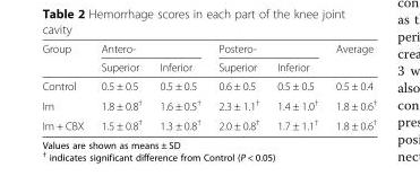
<table><thead><tr><td rowspan="2">Group</td><td colspan="2">Antero-</td><td colspan="2">Postero-</td><td rowspan="2">Average</td></tr><tr><td>Superior</td><td>Inferior</td><td>Superior</td><td>Inferior</td></tr></thead><tbody><tr><td>Control</td><td>0.5 ± 0.5</td><td>0.5 ± 0.5</td><td>0.6 ± 0.5</td><td>0.5 ± 0.5</td><td>0.5 ± 0.4</td></tr><tr><td>Im</td><td>1.8 ± 0.8<sup>†</sup></td><td>1.6 ± 0.5<sup>†</sup></td><td>2.3 ± 1.1<sup>†</sup></td><td>1.4 ± 1.0<sup>†</sup></td><td>1.8 ± 0.6<sup>†</sup></td></tr><tr><td>Im + CBX</td><td>1.5 ± 0.8<sup>†</sup></td><td>1.3 ± 0.8<sup>†</sup></td><td>2.0 ± 0.8<sup>†</sup></td><td>1.7 ± 1.1<sup>†</sup></td><td>1.8 ± 0.6<sup>†</sup></td></tr></tbody></table>